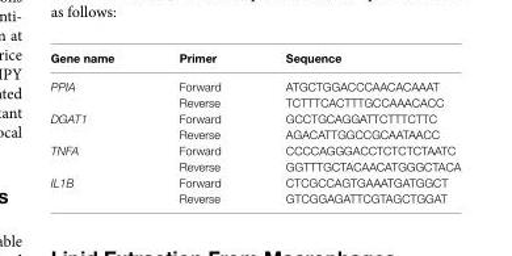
<table><thead><tr><td>gene name</td><td>Primer</td><td>sequence</td></tr></thead><tbody><tr><td rowspan="2">PPIA</td><td>Forward</td><td>ATGCTGGACCCAACACAAAT</td></tr><tr><td>Reverse</td><td>TCTTTCACTTTGCCAAACACC</td></tr><tr><td rowspan="2">DGAT1</td><td>Forward</td><td>GCCTGCAGGATTCTTTCTTC</td></tr><tr><td>Reverse</td><td>AGACATTGGCCGCAATAACC</td></tr><tr><td rowspan="2">TNFA</td><td>Forward</td><td>CCCCAGGGACCTCTCTCTAATC</td></tr><tr><td>Reverse</td><td>GGTTTGCTACAACATGGGCTACA</td></tr><tr><td rowspan="2">IL1B</td><td>Forward</td><td>CTCGCCAGTGAAATGATGGCT</td></tr><tr><td>Reverse</td><td>GTCGGAGATTCGTAGCTGGAT</td></tr></tbody></table>